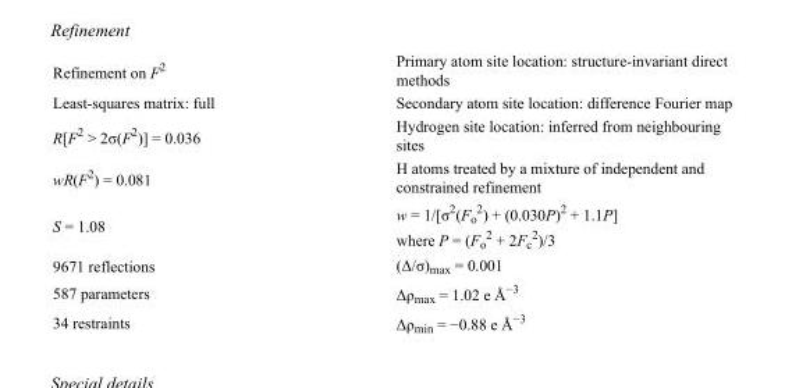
<table><tbody><tr><td>Refinement on F<sup>2</sup></td><td>Primary atom site location: structure-invariant direct methods</td></tr><tr><td>Least-squares matrix: full</td><td>Secondary atom site location: difference Fourier map</td></tr><tr><td>R[F<sup>2</sup> &gt; 2σ(F<sup>2</sup>)] = 0.036</td><td>Hydrogen site location: inferred from neighbouring sites</td></tr><tr><td>wR(F<sup>2</sup>) = 0.081</td><td>H atoms treated by a mixture of independent and constrained refinement</td></tr><tr><td>S = 1.08</td><td>w = 1/[σ<sup>2</sup>(F<sub>o</sub> <sup>2</sup>) + (0.030P)<sup>2</sup> + 1.1P] where P = (F<sub>o</sub> <sup>2</sup> + 2F<sub>c</sub> <sup>2</sup>)/3</td></tr><tr><td>9671 reflections</td><td>(Δ/σ)<sub>max</sub> = 0.001</td></tr><tr><td>587 parameters</td><td>Δρ<sub>max</sub> = 1.02 e Å<sup>−3</sup></td></tr><tr><td>34 restraints</td><td>Δρ<sub>min</sub> = −0.88 e Å<sup>−3</sup></td></tr></tbody></table>